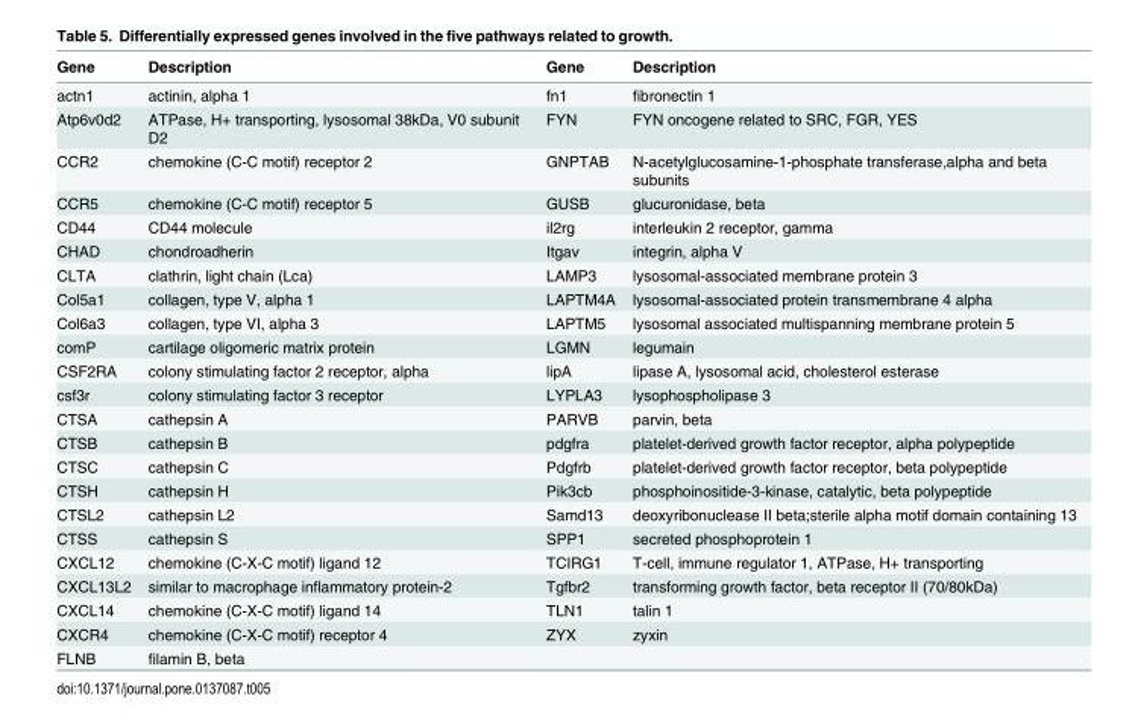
<table><thead><tr><td>Gene</td><td>Description</td><td>Gene</td><td>Description</td></tr></thead><tbody><tr><td>actn1</td><td>actinin, alpha 1</td><td>fn1</td><td>fibronectin 1</td></tr><tr><td>Atp6v0d2</td><td>ATPase, H+ transporting, lysosomal 38kDa, V0 subunit D2</td><td>FYN</td><td>FYN oncogene related to SRC, FGR, YES</td></tr><tr><td>CCR2</td><td>chemokine (C-C motif) receptor 2</td><td>GNPTAB</td><td>N-acetylglucosamine-1-phosphate transferase,alpha and beta subunits</td></tr><tr><td>CCR5</td><td>chemokine (C-C motif) receptor 5</td><td>GUSB</td><td>glucuronidase, beta</td></tr><tr><td>CD44</td><td>CD44 molecule</td><td>il2rg</td><td>interleukin 2 receptor, gamma</td></tr><tr><td>CHAD</td><td>chondroadherin</td><td>Itgav</td><td>integrin, alpha V</td></tr><tr><td>CLTA</td><td>clathrin, light chain (Lca)</td><td>LAMP3</td><td>lysosomal-associated membrane protein 3</td></tr><tr><td>Col5a1</td><td>collagen, type V, alpha 1</td><td>LAPTM4A</td><td>lysosomal-associated protein transmembrane 4 alpha</td></tr><tr><td>Col6a3</td><td>collagen, type VI, alpha 3</td><td>LAPTM5</td><td>lysosomal associated multispanning membrane protein 5</td></tr><tr><td>comP</td><td>cartilage oligomeric matrix protein</td><td>LGMN</td><td>legumain</td></tr><tr><td>CSF2RA</td><td>colony stimulating factor 2 receptor, alpha</td><td>lipA</td><td>lipase A, lysosomal acid, cholesterol esterase</td></tr><tr><td>csf3r</td><td>colony stimulating factor 3 receptor</td><td>LYPLA3</td><td>lysophospholipase 3</td></tr><tr><td>CTSA</td><td>cathepsin A</td><td>PARVB</td><td>parvin, beta</td></tr><tr><td>CTSB</td><td>cathepsin B</td><td>pdgfra</td><td>platelet-derived growth factor receptor, alpha polypeptide</td></tr><tr><td>CTSC</td><td>cathepsin C</td><td>Pdgfrb</td><td>platelet-derived growth factor receptor, beta polypeptide</td></tr><tr><td>CTSH</td><td>cathepsin H</td><td>Pik3cb</td><td>phosphoinositide-3-kinase, catalytic, beta polypeptide</td></tr><tr><td>CTSL2</td><td>cathepsin L2</td><td>Samd13</td><td>deoxyribonuclease II beta;sterile alpha motif domain containing 13</td></tr><tr><td>CTSS</td><td>cathepsin S</td><td>SPP1</td><td>secreted phosphoprotein 1</td></tr><tr><td>CXCL12</td><td>chemokine (C-X-C motif) ligand 12</td><td>TCIRG1</td><td>T-cell, immune regulator 1, ATPase, H+ transporting</td></tr><tr><td>CXCL13L2</td><td>similar to macrophage inflammatory protein-2</td><td>Tgfbr2</td><td>transforming growth factor, beta receptor II (70/80kDa)</td></tr><tr><td>CXCL14</td><td>chemokine (C-X-C motif) ligand 14</td><td>TLN1</td><td>talin 1</td></tr><tr><td>CXCR4</td><td>chemokine (C-X-C motif) receptor 4</td><td>ZYX</td><td>zyxin</td></tr><tr><td>FLNB</td><td>filamin B, beta</td><td></td><td></td></tr></tbody></table>